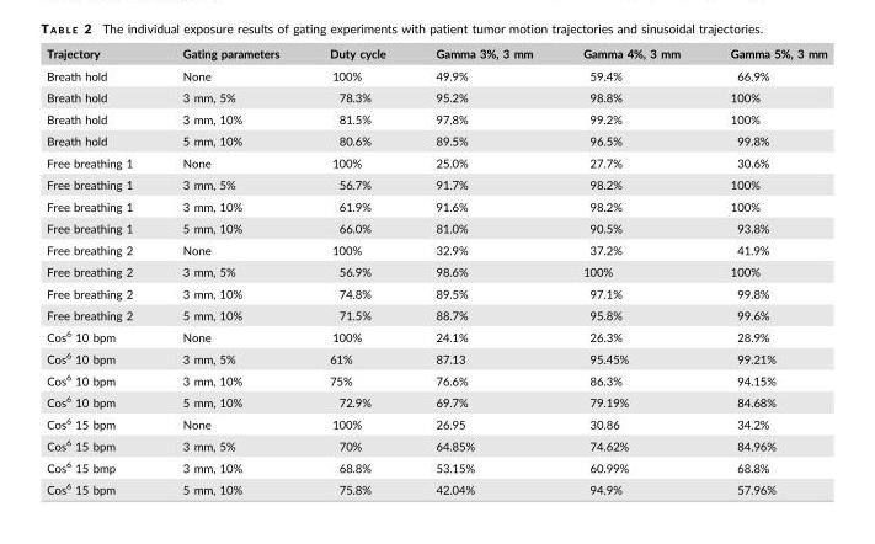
<table><thead><tr><td>Trajectory</td><td>Gating parameters</td><td>Duty cycle</td><td>Gamma 3%, 3 mm</td><td>Gamma 4%, 3 mm</td><td>Gamma 5%, 3 mm</td></tr></thead><tbody><tr><td>Breath hold</td><td>None</td><td>100%</td><td>49.9%</td><td>59.4%</td><td>66.9%</td></tr><tr><td>Breath hold</td><td>3 mm, 5%</td><td>78.3%</td><td>95.2%</td><td>98.8%</td><td>100%</td></tr><tr><td>Breath hold</td><td>3 mm, 10%</td><td>81.5%</td><td>97.8%</td><td>99.2%</td><td>100%</td></tr><tr><td>Breath hold</td><td>5 mm, 10%</td><td>80.6%</td><td>89.5%</td><td>96.5%</td><td>99.8%</td></tr><tr><td>Free breathing 1</td><td>None</td><td>100%</td><td>25.0%</td><td>27.7%</td><td>30.6%</td></tr><tr><td>Free breathing 1</td><td>3 mm, 5%</td><td>56.7%</td><td>91.7%</td><td>98.2%</td><td>100%</td></tr><tr><td>Free breathing 1</td><td>3 mm, 10%</td><td>61.9%</td><td>91.6%</td><td>98.2%</td><td>100%</td></tr><tr><td>Free breathing 1</td><td>5 mm, 10%</td><td>66.0%</td><td>81.0%</td><td>90.5%</td><td>93.8%</td></tr><tr><td>Free breathing 2</td><td>None</td><td>100%</td><td>32.9%</td><td>37.2%</td><td>41.9%</td></tr><tr><td>Free breathing 2</td><td>3 mm, 5%</td><td>56.9%</td><td>98.6%</td><td>100%</td><td>100%</td></tr><tr><td>Free breathing 2</td><td>3 mm, 10%</td><td>74.8%</td><td>89.5%</td><td>97.1%</td><td>99.8%</td></tr><tr><td>Free breathing 2</td><td>5 mm, 10%</td><td>71.5%</td><td>88.7%</td><td>95.8%</td><td>99.6%</td></tr><tr><td>Cos<sup>6</sup> 10 bpm</td><td>None</td><td>100%</td><td>24.1%</td><td>26.3%</td><td>28.9%</td></tr><tr><td>Cos<sup>6</sup> 10 bpm</td><td>3 mm, 5%</td><td>61%</td><td>87.13</td><td>95.45%</td><td>99.21%</td></tr><tr><td>Cos<sup>6</sup> 10 bpm</td><td>3 mm, 10%</td><td>75%</td><td>76.6%</td><td>86.3%</td><td>94.15%</td></tr><tr><td>Cos<sup>6</sup> 10 bpm</td><td>5 mm, 10%</td><td>72.9%</td><td>69.7%</td><td>79.19%</td><td>84.68%</td></tr><tr><td>Cos<sup>6</sup> 15 bpm</td><td>None</td><td>100%</td><td>26.95</td><td>30.86</td><td>34.2%</td></tr><tr><td>Cos<sup>6</sup> 15 bpm</td><td>3 mm, 5%</td><td>70%</td><td>64.85%</td><td>74.62%</td><td>84.96%</td></tr><tr><td>Cos<sup>6</sup> 15 bmp</td><td>3 mm, 10%</td><td>68.8%</td><td>53.15%</td><td>60.99%</td><td>68.8%</td></tr><tr><td>Cos<sup>6</sup> 15 bpm</td><td>5 mm, 10%</td><td>75.8%</td><td>42.04%</td><td>94.9%</td><td>57.96%</td></tr></tbody></table>